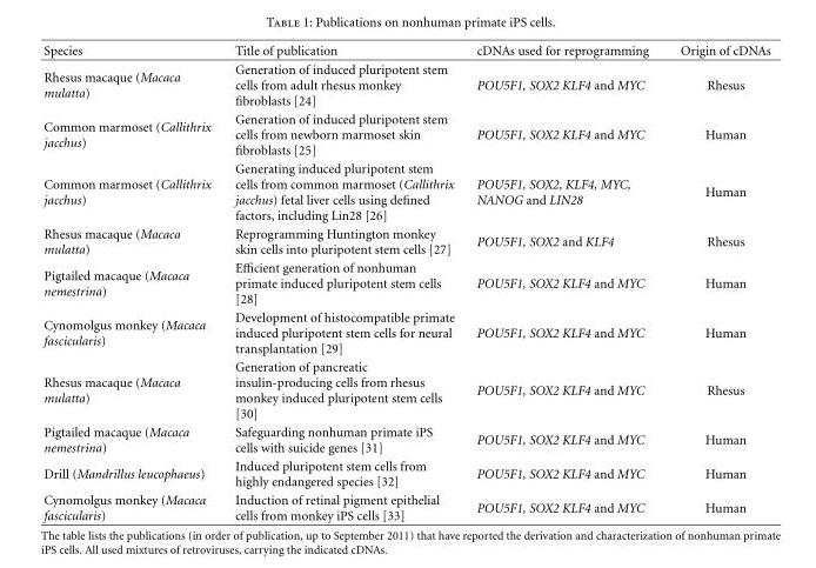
<table><thead><tr><td>Species</td><td>Title of publication</td><td>cDNAs used for reprogramming</td><td>Origin of cDNAs</td></tr></thead><tbody><tr><td>Rhesus macaque (Macaca mulatta)</td><td>Generation of induced pluripotent stem cells from adult rhesus monkey fibroblasts [24]</td><td>POU5F1, SOX2 KLF4 and MYC</td><td>Rhesus</td></tr><tr><td>Common marmoset (Callithrix jacchus)</td><td>Generation of induced pluripotent stem cells from newborn marmoset skin fibroblasts [25]</td><td>POU5F1, SOX2 KLF4 and MYC</td><td>Human</td></tr><tr><td>Common marmoset (Callithrix jacchus)</td><td>Generating induced pluripotent stem cells from common marmoset (Callithrix jacchus) fetal liver cells using defined factors, including Lin28 [26]</td><td>POU5F1, SOX2, KLF4, MYC, NANOG and LIN28</td><td>Human</td></tr><tr><td>Rhesus macaque (Macaca mulatta)</td><td>Reprogramming Huntington monkey skin cells into pluripotent stem cells [27]</td><td>POU5F1, SOX2 and KLF4</td><td>Rhesus</td></tr><tr><td>Pigtailed macaque (Macaca nemestrina)</td><td>Efficient generation of nonhuman primate induced pluripotent stem cells [28]</td><td>POU5F1, SOX2 KLF4 and MYC</td><td>Human</td></tr><tr><td>Cynomolgus monkey (Macaca fascicularis)</td><td>Development of histocompatible primate induced pluripotent stem cells for neural transplantation [29]</td><td>POU5F1, SOX2 KLF4 and MYC</td><td>Human</td></tr><tr><td>Rhesus macaque (Macaca mulatta)</td><td>Generation of pancreatic insulin-producing cells from rhesus monkey induced pluripotent stem cells [30]</td><td>POU5F1, SOX2 KLF4 and MYC</td><td>Rhesus</td></tr><tr><td>Pigtailed macaque (Macaca nemestrina)</td><td>Safeguarding nonhuman primate iPS cells with suicide genes [31]</td><td>POU5F1, SOX2 KLF4 and MYC</td><td>Human</td></tr><tr><td>Drill (Mandrillus leucophaeus)</td><td>Induced pluripotent stem cells from highly endangered species [32]</td><td>POU5F1, SOX2 KLF4 and MYC</td><td>Human</td></tr><tr><td>Cynomolgus monkey (Macaca fascicularis)</td><td>Induction of retinal pigment epithelial cells from monkey iPS cells [33]</td><td>POU5F1, SOX2 KLF4 and MYC</td><td>Human</td></tr></tbody></table>